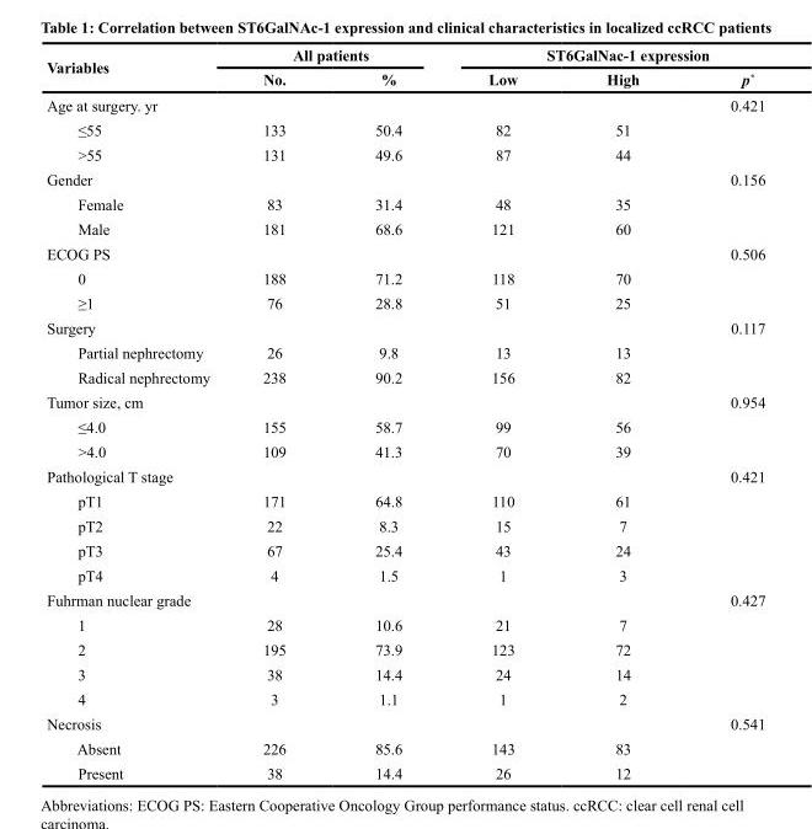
<table><thead><tr><td rowspan="2">Variables</td><td colspan="2">All patients</td><td colspan="3">ST6GalNac-1 expression</td></tr><tr><td>No.</td><td>%</td><td>Low</td><td>High</td><td>p*</td></tr></thead><tbody><tr><td>Age at surgery. yr</td><td></td><td></td><td></td><td></td><td>0.421</td></tr><tr><td>≤55</td><td>133</td><td>50.4</td><td>82</td><td>51</td><td></td></tr><tr><td>&gt;55</td><td>131</td><td>49.6</td><td>87</td><td>44</td><td></td></tr><tr><td>Gender</td><td></td><td></td><td></td><td></td><td>0.156</td></tr><tr><td>Female</td><td>83</td><td>31.4</td><td>48</td><td>35</td><td></td></tr><tr><td>Male</td><td>181</td><td>68.6</td><td>121</td><td>60</td><td></td></tr><tr><td>ECOG PS</td><td></td><td></td><td></td><td></td><td>0.506</td></tr><tr><td>0</td><td>188</td><td>71.2</td><td>118</td><td>70</td><td></td></tr><tr><td>≥1</td><td>76</td><td>28.8</td><td>51</td><td>25</td><td></td></tr><tr><td>Surgery</td><td></td><td></td><td></td><td></td><td>0.117</td></tr><tr><td>Partial nephrectomy</td><td>26</td><td>9.8</td><td>13</td><td>13</td><td></td></tr><tr><td>Radical nephrectomy</td><td>238</td><td>90.2</td><td>156</td><td>82</td><td></td></tr><tr><td>Tumor size, cm</td><td></td><td></td><td></td><td></td><td>0.954</td></tr><tr><td>≤4.0</td><td>155</td><td>58.7</td><td>99</td><td>56</td><td></td></tr><tr><td>&gt;4.0</td><td>109</td><td>41.3</td><td>70</td><td>39</td><td></td></tr><tr><td>Pathological T stage</td><td></td><td></td><td></td><td></td><td>0.421</td></tr><tr><td>pT1</td><td>171</td><td>64.8</td><td>110</td><td>61</td><td></td></tr><tr><td>pT2</td><td>22</td><td>8.3</td><td>15</td><td>7</td><td></td></tr><tr><td>pT3</td><td>67</td><td>25.4</td><td>43</td><td>24</td><td></td></tr><tr><td>pT4</td><td>4</td><td>1.5</td><td>1</td><td>3</td><td></td></tr><tr><td>Fuhrman nuclear grade</td><td></td><td></td><td></td><td></td><td>0.427</td></tr><tr><td>1</td><td>28</td><td>10.6</td><td>21</td><td>7</td><td></td></tr><tr><td>2</td><td>195</td><td>73.9</td><td>123</td><td>72</td><td></td></tr><tr><td>3</td><td>38</td><td>14.4</td><td>24</td><td>14</td><td></td></tr><tr><td>4</td><td>3</td><td>1.1</td><td>1</td><td>2</td><td></td></tr><tr><td>Necrosis</td><td></td><td></td><td></td><td></td><td>0.541</td></tr><tr><td>Absent</td><td>226</td><td>85.6</td><td>143</td><td>83</td><td></td></tr><tr><td>Present</td><td>38</td><td>14.4</td><td>26</td><td>12</td><td></td></tr></tbody></table>